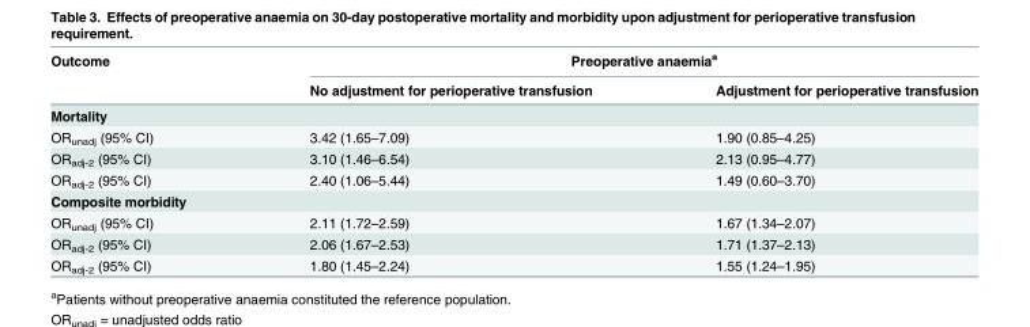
<table><thead><tr><td rowspan="2">Outcome</td><td colspan="2">Preoperative anaemia<sup>a</sup></td></tr><tr><td>No adjustment for perioperative transfusion</td><td>Adjustment for perioperative transfusion</td></tr></thead><tbody><tr><td colspan="3">Mortality</td></tr><tr><td>OR<sub>unadj</sub> (95% CI)</td><td>3.42 (1.65–7.09)</td><td>1.90 (0.85–4.25)</td></tr><tr><td>OR<sub>adj-2</sub> (95% CI)</td><td>3.10 (1.46–6.54)</td><td>2.13 (0.95–4.77)</td></tr><tr><td>OR<sub>adj-2</sub> (95% CI)</td><td>2.40 (1.06–5.44)</td><td>1.49 (0.60–3.70)</td></tr><tr><td colspan="3">Composite morbidity</td></tr><tr><td>OR<sub>unadj</sub> (95% CI)</td><td>2.11 (1.72–2.59)</td><td>1.67 (1.34–2.07)</td></tr><tr><td>OR<sub>adj-2</sub> (95% CI)</td><td>2.06 (1.67–2.53)</td><td>1.71 (1.37–2.13)</td></tr><tr><td>OR<sub>adj-2</sub> (95% CI)</td><td>1.80 (1.45–2.24)</td><td>1.55 (1.24–1.95)</td></tr></tbody></table>